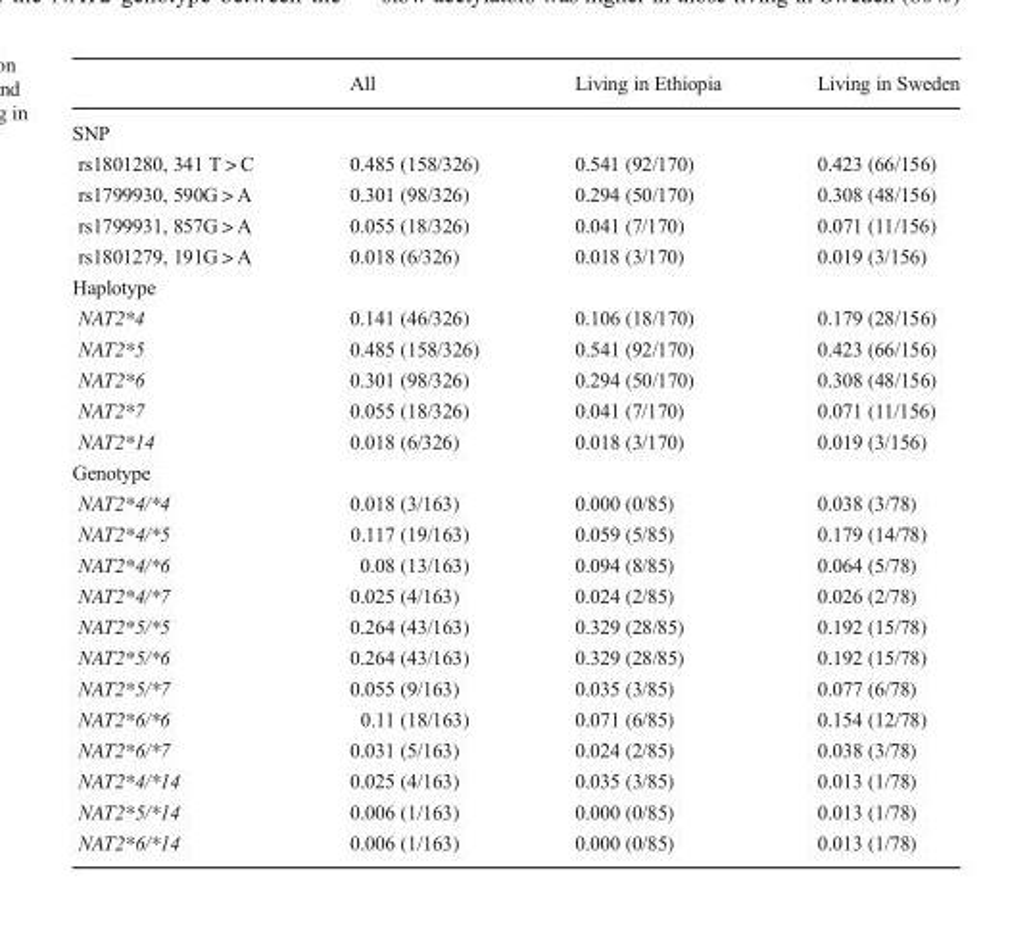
<table><thead><tr><td></td><td>All</td><td>Living in Ethiopia</td><td>Living in Sweden</td></tr></thead><tbody><tr><td colspan="4">SNP</td></tr><tr><td>rs1801280, 341 T &gt; C</td><td>0.485 (158/326)</td><td>0.541 (92/170)</td><td>0.423 (66/156)</td></tr><tr><td>rs1799930, 590G &gt; A</td><td>0.301 (98/326)</td><td>0.294 (50/170)</td><td>0.308 (48/156)</td></tr><tr><td>rs1799931, 857G &gt; A</td><td>0.055 (18/326)</td><td>0.041 (7/170)</td><td>0.071 (11/156)</td></tr><tr><td>rs1801279, 191G &gt; A</td><td>0.018 (6/326)</td><td>0.018 (3/170)</td><td>0.019 (3/156)</td></tr><tr><td colspan="4">Haplotype</td></tr><tr><td>NAT2*4</td><td>0.141 (46/326)</td><td>0.106 (18/170)</td><td>0.179 (28/156)</td></tr><tr><td>NAT2*5</td><td>0.485 (158/326)</td><td>0.541 (92/170)</td><td>0.423 (66/156)</td></tr><tr><td>NAT2*6</td><td>0.301 (98/326)</td><td>0.294 (50/170)</td><td>0.308 (48/156)</td></tr><tr><td>NAT2*7</td><td>0.055 (18/326)</td><td>0.041 (7/170)</td><td>0.071 (11/156)</td></tr><tr><td>NAT2*14</td><td>0.018 (6/326)</td><td>0.018 (3/170)</td><td>0.019 (3/156)</td></tr><tr><td colspan="4">Genotype</td></tr><tr><td>NAT2*4/*4</td><td>0.018 (3/163)</td><td>0.000 (0/85)</td><td>0.038 (3/78)</td></tr><tr><td>NAT2*4/*5</td><td>0.117 (19/163)</td><td>0.059 (5/85)</td><td>0.179 (14/78)</td></tr><tr><td>NAT2*4/*6</td><td>0.08 (13/163)</td><td>0.094 (8/85)</td><td>0.064 (5/78)</td></tr><tr><td>NAT2*4/*7</td><td>0.025 (4/163)</td><td>0.024 (2/85)</td><td>0.026 (2/78)</td></tr><tr><td>NAT2*5/*5</td><td>0.264 (43/163)</td><td>0.329 (28/85)</td><td>0.192 (15/78)</td></tr><tr><td>NAT2*5/*6</td><td>0.264 (43/163)</td><td>0.329 (28/85)</td><td>0.192 (15/78)</td></tr><tr><td>NAT2*5/*7</td><td>0.055 (9/163)</td><td>0.035 (3/85)</td><td>0.077 (6/78)</td></tr><tr><td>NAT2*6/*6</td><td>0.11 (18/163)</td><td>0.071 (6/85)</td><td>0.154 (12/78)</td></tr><tr><td>NAT2*6/*7</td><td>0.031 (5/163)</td><td>0.024 (2/85)</td><td>0.038 (3/78)</td></tr><tr><td>NAT2*4/*14</td><td>0.025 (4/163)</td><td>0.035 (3/85)</td><td>0.013 (1/78)</td></tr><tr><td>NAT2*5/*14</td><td>0.006 (1/163)</td><td>0.000 (0/85)</td><td>0.013 (1/78)</td></tr><tr><td>NAT2*6/*14</td><td>0.006 (1/163)</td><td>0.000 (0/85)</td><td>0.013 (1/78)</td></tr></tbody></table>